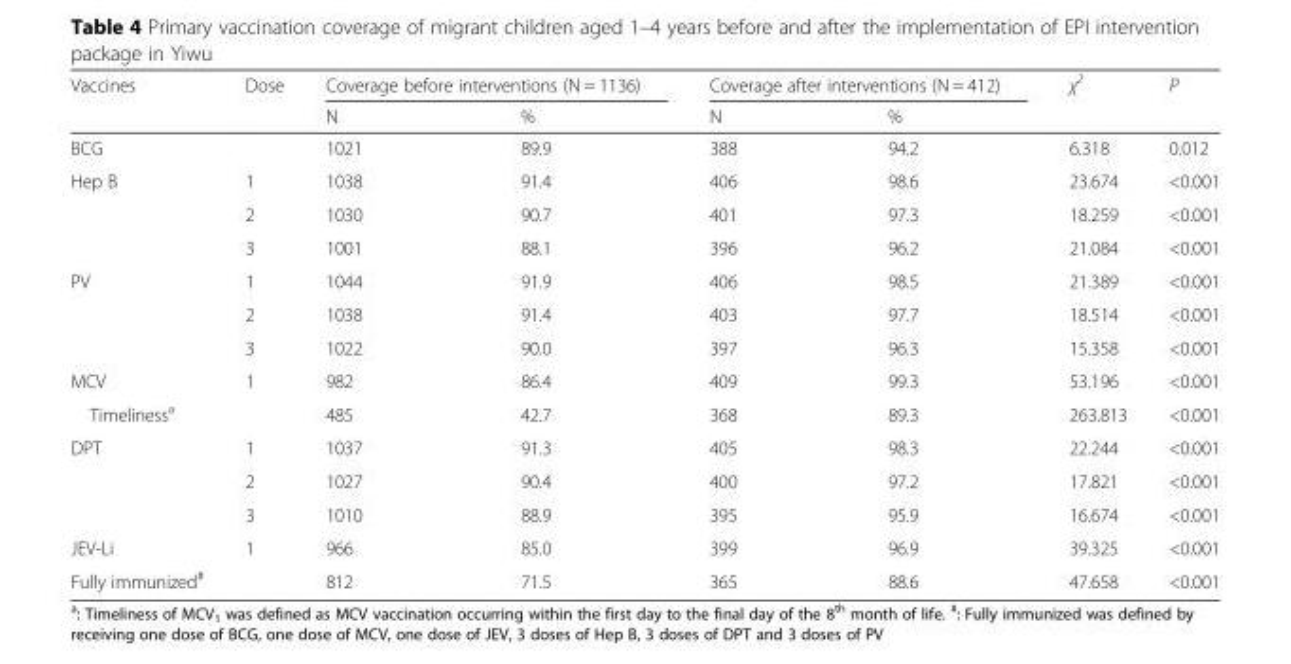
<table><thead><tr><td rowspan="2">Vaccines</td><td rowspan="2">Dose</td><td colspan="2">Coverage before interventions (N = 1136)</td><td colspan="2">Coverage after interventions (N = 412)</td><td rowspan="2">χ<sup>2</sup></td><td rowspan="2">P</td></tr><tr><td>N</td><td>%</td><td>N</td><td>%</td></tr></thead><tbody><tr><td>BCG</td><td></td><td>1021</td><td>89.9</td><td>388</td><td>94.2</td><td>6.318</td><td>0.012</td></tr><tr><td rowspan="3">Hep B</td><td>1</td><td>1038</td><td>91.4</td><td>406</td><td>98.6</td><td>23.674</td><td>&lt;0.001</td></tr><tr><td>2</td><td>1030</td><td>90.7</td><td>401</td><td>97.3</td><td>18.259</td><td>&lt;0.001</td></tr><tr><td>3</td><td>1001</td><td>88.1</td><td>396</td><td>96.2</td><td>21.084</td><td>&lt;0.001</td></tr><tr><td rowspan="3">PV</td><td>1</td><td>1044</td><td>91.9</td><td>406</td><td>98.5</td><td>21.389</td><td>&lt;0.001</td></tr><tr><td>2</td><td>1038</td><td>91.4</td><td>403</td><td>97.7</td><td>18.514</td><td>&lt;0.001</td></tr><tr><td>3</td><td>1022</td><td>90.0</td><td>397</td><td>96.3</td><td>15.358</td><td>&lt;0.001</td></tr><tr><td>MCV</td><td>1</td><td>982</td><td>86.4</td><td>409</td><td>99.3</td><td>53.196</td><td>&lt;0.001</td></tr><tr><td>Timeliness<sup>a</sup></td><td></td><td>485</td><td>42.7</td><td>368</td><td>89.3</td><td>263.813</td><td>&lt;0.001</td></tr><tr><td rowspan="3">DPT</td><td>1</td><td>1037</td><td>91.3</td><td>405</td><td>98.3</td><td>22.244</td><td>&lt;0.001</td></tr><tr><td>2</td><td>1027</td><td>90.4</td><td>400</td><td>97.2</td><td>17.821</td><td>&lt;0.001</td></tr><tr><td>3</td><td>1010</td><td>88.9</td><td>395</td><td>95.9</td><td>16.674</td><td>&lt;0.001</td></tr><tr><td>JEV-Li</td><td>1</td><td>966</td><td>85.0</td><td>399</td><td>96.9</td><td>39.325</td><td>&lt;0.001</td></tr><tr><td>Fully immunized<sup>#</sup></td><td></td><td>812</td><td>71.5</td><td>365</td><td>88.6</td><td>47.658</td><td>&lt;0.001</td></tr></tbody></table>